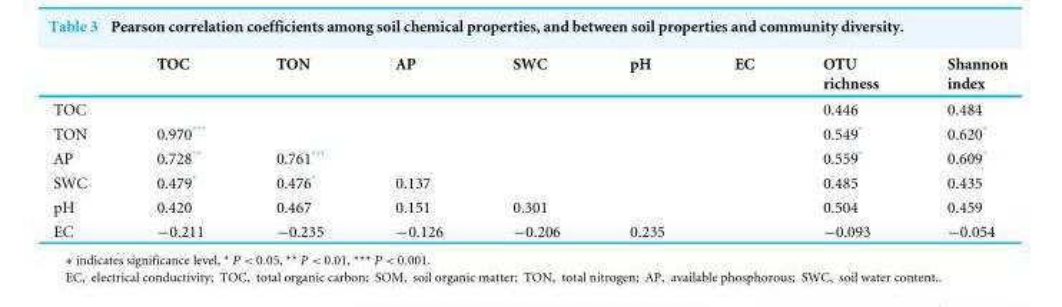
<table><thead><tr><td></td><td>TOC</td><td>TON</td><td>AP</td><td>SWC</td><td>pH</td><td>EC</td><td>OTU richness</td><td>Shannon index</td></tr></thead><tbody><tr><td>TOC</td><td></td><td></td><td></td><td></td><td></td><td></td><td>0.446</td><td>0.484</td></tr><tr><td>TON</td><td>0.970***</td><td></td><td></td><td></td><td></td><td></td><td>0.549*</td><td>0.620*</td></tr><tr><td>AP</td><td>0.728**</td><td>0.761***</td><td></td><td></td><td></td><td></td><td>0.559*</td><td>0.609*</td></tr><tr><td>SWC</td><td>0.479*</td><td>0.476*</td><td>0.137</td><td></td><td></td><td></td><td>0.485</td><td>0.435</td></tr><tr><td>pH</td><td>0.420</td><td>0.467</td><td>0.151</td><td>0.301</td><td></td><td></td><td>0.504</td><td>0.459</td></tr><tr><td>EC</td><td>−0.211</td><td>−0.235</td><td>−0.126</td><td>−0.206</td><td>0.235</td><td></td><td>−0.093</td><td>−0.054</td></tr></tbody></table>